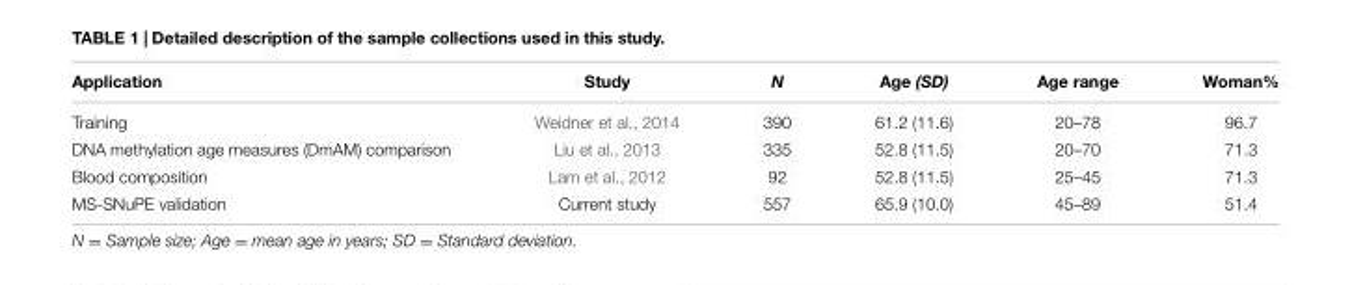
<table><thead><tr><td>Application</td><td>Study</td><td>N</td><td>Age (SD)</td><td>Age range</td><td>Woman%</td></tr></thead><tbody><tr><td>Training</td><td>Weidner et al., 2014</td><td>390</td><td>61.2 (11.6)</td><td>20–78</td><td>96.7</td></tr><tr><td>DNA methylation age measures (DmAM) comparison</td><td>Liu et al., 2013</td><td>335</td><td>52.8 (11.5)</td><td>20–70</td><td>71.3</td></tr><tr><td>Blood composition</td><td>Lam et al., 2012</td><td>92</td><td>52.8 (11.5)</td><td>25–45</td><td>71.3</td></tr><tr><td>MS-SNuPE validation</td><td>Current study</td><td>557</td><td>65.9 (10.0)</td><td>45–89</td><td>51.4</td></tr></tbody></table>